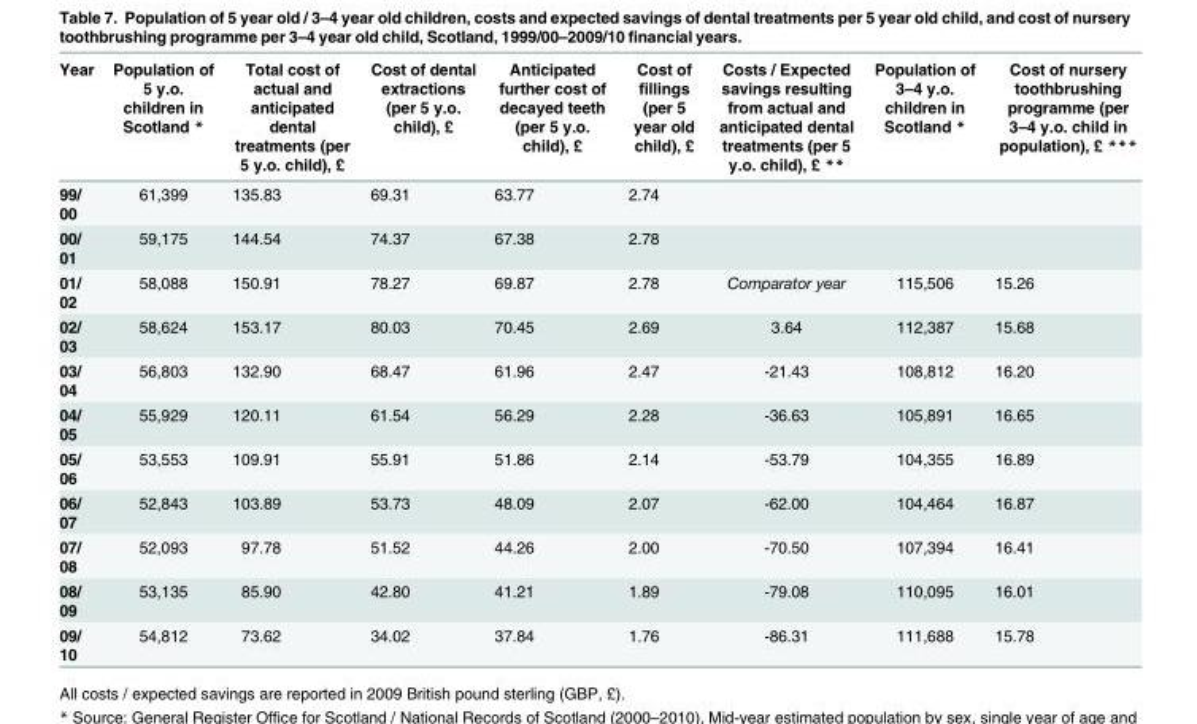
<table><thead><tr><td>Year</td><td>Population of 5 y.o. children in Scotland *</td><td>Total cost of actual and anticipated dental treatments (per 5 y.o. child), £</td><td>Cost of dental extractions (per 5 y.o. child), £</td><td>Anticipated further cost of decayed teeth (per 5 y.o. child), £</td><td>Cost of fillings (per 5 year old child), £</td><td>Costs / Expected savings resulting from actual and anticipated dental treatments (per 5 y.o. child), £ **</td><td>Population of 3–4 y.o. children in Scotland *</td><td>Cost of nursery toothbrushing programme (per 3–4 y.o. child in population), £ ***</td></tr></thead><tbody><tr><td>99/ 00</td><td>61,399</td><td>135.83</td><td>69.31</td><td>63.77</td><td>2.74</td><td></td><td></td><td></td></tr><tr><td>00/ 01</td><td>59,175</td><td>144.54</td><td>74.37</td><td>67.38</td><td>2.78</td><td></td><td></td><td></td></tr><tr><td>01/ 02</td><td>58,088</td><td>150.91</td><td>78.27</td><td>69.87</td><td>2.78</td><td>Comparator year</td><td>115,506</td><td>15.26</td></tr><tr><td>02/ 03</td><td>58,624</td><td>153.17</td><td>80.03</td><td>70.45</td><td>2.69</td><td>3.64</td><td>112,387</td><td>15.68</td></tr><tr><td>03/ 04</td><td>56,803</td><td>132.90</td><td>68.47</td><td>61.96</td><td>2.47</td><td>-21.43</td><td>108,812</td><td>16.20</td></tr><tr><td>04/ 05</td><td>55,929</td><td>120.11</td><td>61.54</td><td>56.29</td><td>2.28</td><td>-36.63</td><td>105,891</td><td>16.65</td></tr><tr><td>05/ 06</td><td>53,553</td><td>109.91</td><td>55.91</td><td>51.86</td><td>2.14</td><td>-53.79</td><td>104,355</td><td>16.89</td></tr><tr><td>06/ 07</td><td>52,843</td><td>103.89</td><td>53.73</td><td>48.09</td><td>2.07</td><td>-62.00</td><td>104,464</td><td>16.87</td></tr><tr><td>07/ 08</td><td>52,093</td><td>97.78</td><td>51.52</td><td>44.26</td><td>2.00</td><td>-70.50</td><td>107,394</td><td>16.41</td></tr><tr><td>08/ 09</td><td>53,135</td><td>85.90</td><td>42.80</td><td>41.21</td><td>1.89</td><td>-79.08</td><td>110,095</td><td>16.01</td></tr><tr><td>09/ 10</td><td>54,812</td><td>73.62</td><td>34.02</td><td>37.84</td><td>1.76</td><td>-86.31</td><td>111,688</td><td>15.78</td></tr></tbody></table>